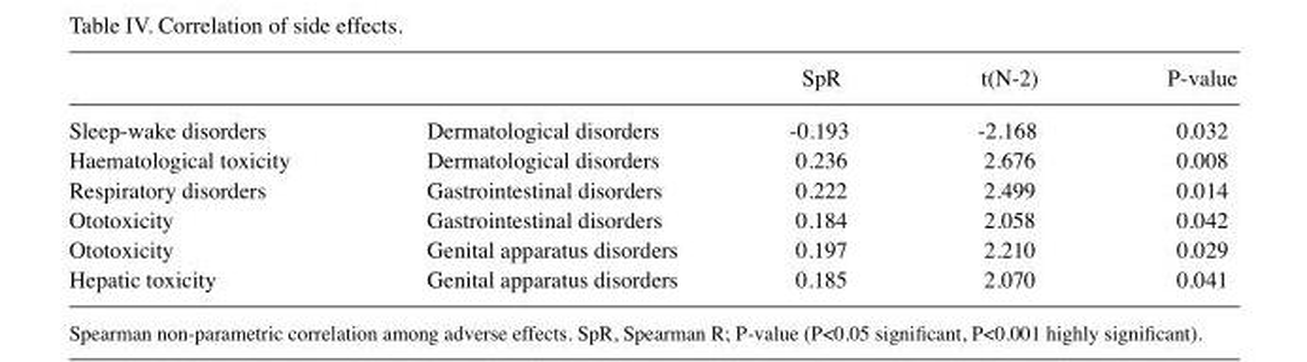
<table><thead><tr><td></td><td></td><td>SpR</td><td>t(N-2)</td><td>P-value</td></tr></thead><tbody><tr><td>Sleep-wake disorders</td><td>Dermatological disorders</td><td>-0.193</td><td>-2.168</td><td>0.032</td></tr><tr><td>Haematological toxicity</td><td>Dermatological disorders</td><td>0.236</td><td>2.676</td><td>0.008</td></tr><tr><td>Respiratory disorders</td><td>Gastrointestinal disorders</td><td>0.222</td><td>2.499</td><td>0.014</td></tr><tr><td>Ototoxicity</td><td>Gastrointestinal disorders</td><td>0.184</td><td>2.058</td><td>0.042</td></tr><tr><td>Ototoxicity</td><td>Genital apparatus disorders</td><td>0.197</td><td>2.210</td><td>0.029</td></tr><tr><td>Hepatic toxicity</td><td>Genital apparatus disorders</td><td>0.185</td><td>2.070</td><td>0.041</td></tr></tbody></table>